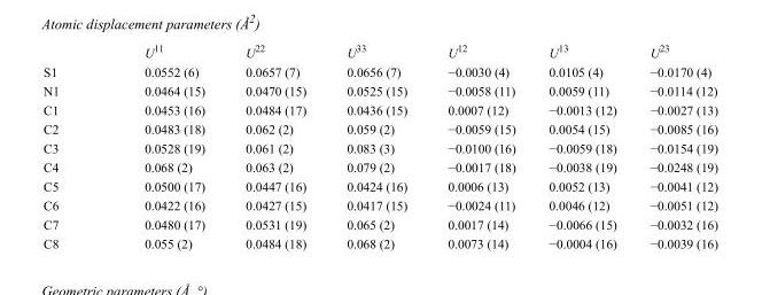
<table><thead><tr><td></td><td>U<sup>11</sup></td><td>U<sup>22</sup></td><td>U<sup>33</sup></td><td>U<sup>12</sup></td><td>U<sup>13</sup></td><td>U<sup>23</sup></td></tr></thead><tbody><tr><td>S1</td><td>0.0552 (6)</td><td>0.0657 (7)</td><td>0.0656 (7)</td><td>−0.0030 (4)</td><td>0.0105 (4)</td><td>−0.0170 (4)</td></tr><tr><td>N1</td><td>0.0464 (15)</td><td>0.0470 (15)</td><td>0.0525 (15)</td><td>−0.0058 (11)</td><td>0.0059 (11)</td><td>−0.0114 (12)</td></tr><tr><td>C1</td><td>0.0453 (16)</td><td>0.0484 (17)</td><td>0.0436 (15)</td><td>0.0007 (12)</td><td>−0.0013 (12)</td><td>−0.0027 (13)</td></tr><tr><td>C2</td><td>0.0483 (18)</td><td>0.062 (2)</td><td>0.059 (2)</td><td>−0.0059 (15)</td><td>0.0054 (15)</td><td>−0.0085 (16)</td></tr><tr><td>C3</td><td>0.0528 (19)</td><td>0.061 (2)</td><td>0.083 (3)</td><td>−0.0100 (16)</td><td>−0.0059 (18)</td><td>−0.0154 (19)</td></tr><tr><td>C4</td><td>0.068 (2)</td><td>0.063 (2)</td><td>0.079 (2)</td><td>−0.0017 (18)</td><td>−0.0038 (19)</td><td>−0.0248 (19)</td></tr><tr><td>C5</td><td>0.0500 (17)</td><td>0.0447 (16)</td><td>0.0424 (16)</td><td>0.0006 (13)</td><td>0.0052 (13)</td><td>−0.0041 (12)</td></tr><tr><td>C6</td><td>0.0422 (16)</td><td>0.0427 (15)</td><td>0.0417 (15)</td><td>−0.0024 (11)</td><td>0.0046 (12)</td><td>−0.0051 (12)</td></tr><tr><td>C7</td><td>0.0480 (17)</td><td>0.0531 (19)</td><td>0.065 (2)</td><td>0.0017 (14)</td><td>−0.0066 (15)</td><td>−0.0032 (16)</td></tr><tr><td>C8</td><td>0.055 (2)</td><td>0.0484 (18)</td><td>0.068 (2)</td><td>0.0073 (14)</td><td>−0.0004 (16)</td><td>−0.0039 (16)</td></tr></tbody></table>